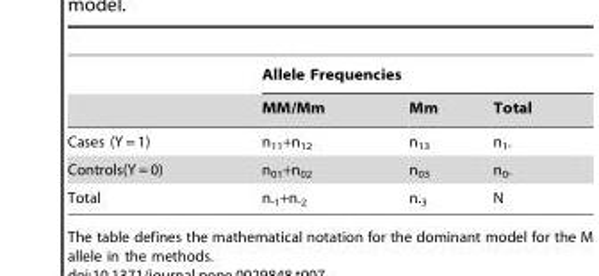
<table><thead><tr><td rowspan="2"></td><td colspan="3">Allele Frequencies</td></tr><tr><td>MM/Mm</td><td>Mm</td><td>Total</td></tr></thead><tbody><tr><td>Cases (Y = 1)</td><td>n<sub>11</sub>+n<sub>12</sub></td><td>n<sub>13</sub></td><td>n<sub>1</sub>.</td></tr><tr><td>Controls(Y = 0)</td><td>n<sub>01</sub>+n<sub>02</sub></td><td>n<sub>03</sub></td><td>n<sub>0</sub>.</td></tr><tr><td>Total</td><td>n.<sub>1</sub>+n.<sub>2</sub></td><td>n.<sub>3</sub></td><td>N</td></tr></tbody></table>